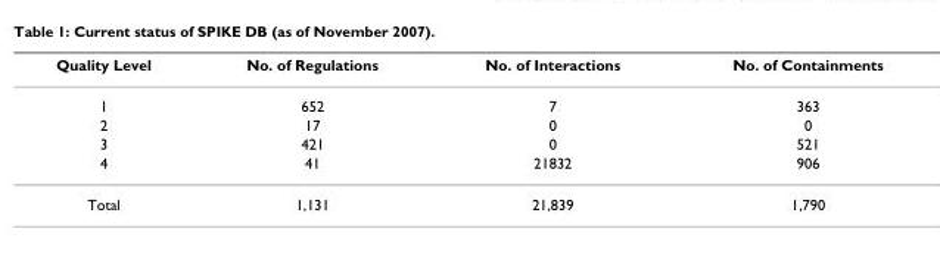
<table><thead><tr><td>Quality Level</td><td>No. of Regulations</td><td>No. of Interactions</td><td>No. of Containments</td></tr></thead><tbody><tr><td>1</td><td>652</td><td>7</td><td>363</td></tr><tr><td>2</td><td>17</td><td>0</td><td>0</td></tr><tr><td>3</td><td>421</td><td>0</td><td>521</td></tr><tr><td>4</td><td>41</td><td>21832</td><td>906</td></tr><tr><td>Total</td><td>1,131</td><td>21,839</td><td>1,790</td></tr></tbody></table>